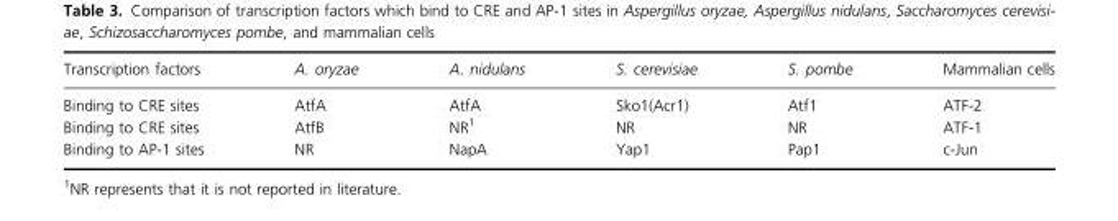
<table><thead><tr><td>Transcription factors</td><td>A. oryzae</td><td>A. nidulans</td><td>S. cerevisiae</td><td>S. pombe</td><td>Mammalian cells</td></tr></thead><tbody><tr><td>Binding to CRE sites</td><td>AtfA</td><td>AtfA</td><td>Sko1(Acr1)</td><td>Atf1</td><td>ATF-2</td></tr><tr><td>Binding to CRE sites</td><td>AtfB</td><td>NR<sup>1</sup></td><td>NR</td><td>NR</td><td>ATF-1</td></tr><tr><td>Binding to AP-1 sites</td><td>NR</td><td>NapA</td><td>Yap1</td><td>Pap1</td><td>c-Jun</td></tr></tbody></table>